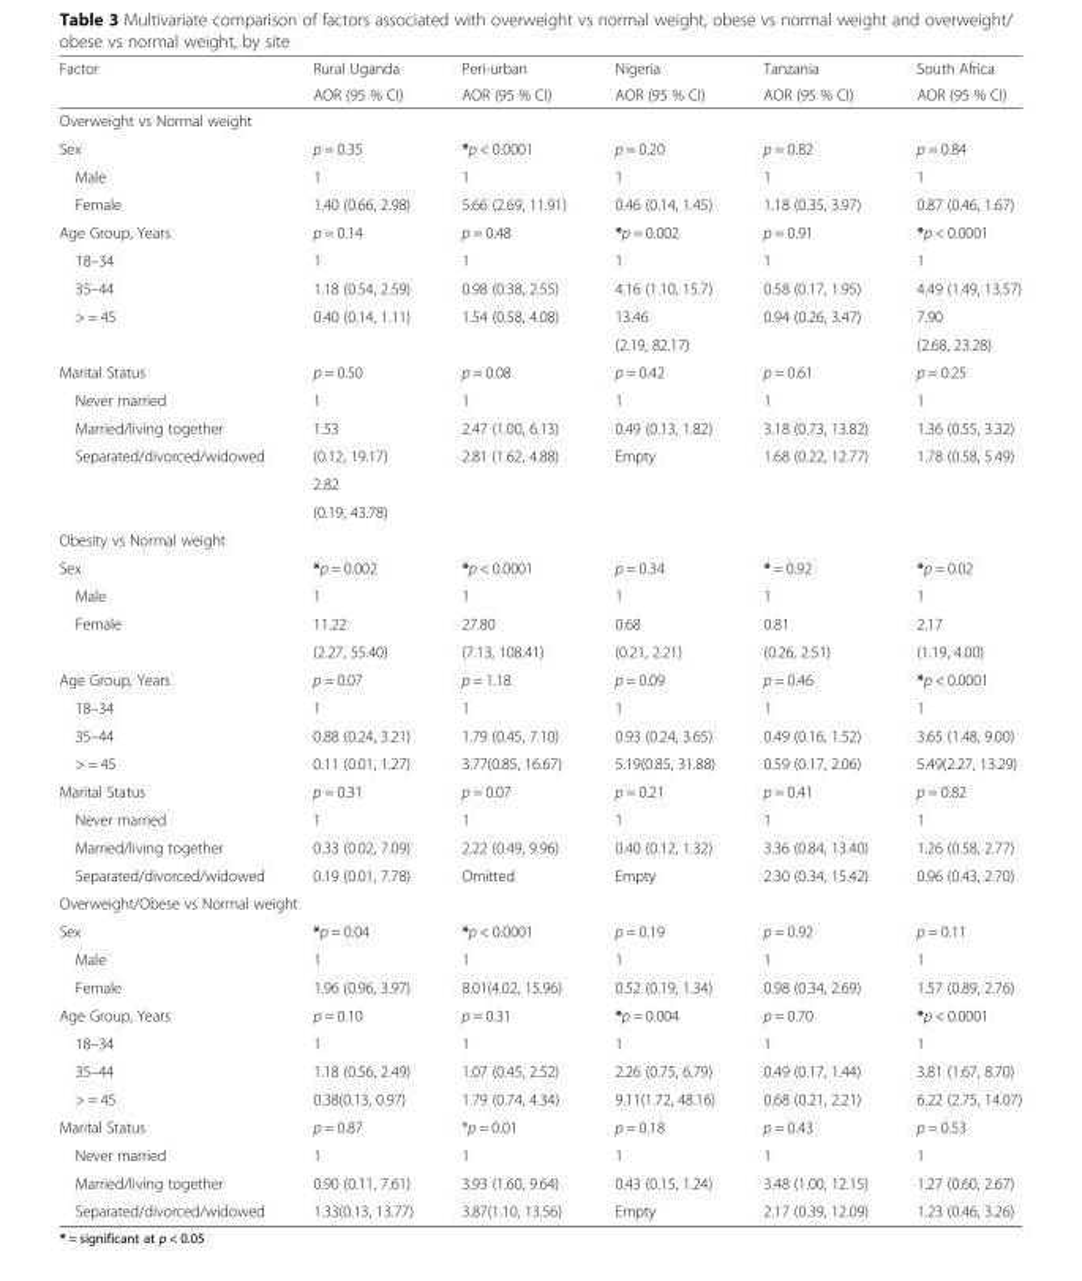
<table><thead><tr><td rowspan="2">Factor</td><td rowspan="2">Rural Uganda AOR (95 % CI)</td><td rowspan="2">Peri-urban AOR (95 % CI)</td><td rowspan="2">Nigeria AOR (95 % CI)</td><td rowspan="2">Tanzania AOR (95 % CI)</td><td rowspan="2">South Africa AOR (95 % CI)</td></tr><tr></tr></thead><tbody><tr><td colspan="6">Overweight vs Normal weight</td></tr><tr><td>Sex</td><td>p = 0.35</td><td>*p &lt; 0.0001</td><td>p = 0.20</td><td>p = 0.82</td><td>p = 0.84</td></tr><tr><td>Male</td><td>1</td><td>1</td><td>1</td><td>1</td><td>1</td></tr><tr><td>Female</td><td>1.40 (0.66, 2.98)</td><td>5.66 (2.69, 11.91)</td><td>0.46 (0.14, 1.45)</td><td>1.18 (0.35, 3.97)</td><td>0.87 (0.46, 1.67)</td></tr><tr><td>Age Group, Years</td><td>p = 0.14</td><td>p = 0.48</td><td>*p = 0.002</td><td>p = 0.91</td><td>*p &lt; 0.0001</td></tr><tr><td>18–34</td><td>1</td><td>1</td><td>1</td><td>1</td><td>1</td></tr><tr><td>35–44</td><td>1.18 (0.54, 2.59)</td><td>0.98 (0.38, 2.55)</td><td>4.16 (1.10, 15.7)</td><td>0.58 (0.17, 1.95)</td><td>4.49 (1.49, 13.57)</td></tr><tr><td rowspan="2">&gt; = 45</td><td rowspan="2">0.40 (0.14, 1.11)</td><td rowspan="2">1.54 (0.58, 4.08)</td><td>13.46</td><td rowspan="2">0.94 (0.26, 3.47)</td><td>7.90</td></tr><tr><td>(2.19, 82.17)</td><td>(2.68, 23.28)</td></tr><tr><td>Marital Status</td><td>p = 0.50</td><td>p = 0.08</td><td>p = 0.42</td><td>p = 0.61</td><td>p = 0.25</td></tr><tr><td>Never married</td><td>1</td><td>1</td><td>1</td><td>1</td><td>1</td></tr><tr><td>Married/living together</td><td>1.53</td><td>2.47 (1.00, 6.13)</td><td>0.49 (0.13, 1.82)</td><td>3.18 (0.73, 13.82)</td><td>1.36 (0.55, 3.32)</td></tr><tr><td rowspan="3">Separated/divorced/widowed</td><td>(0.12, 19.17)</td><td rowspan="3">2.81 (1.62, 4.88)</td><td rowspan="3">Empty</td><td rowspan="3">1.68 (0.22, 12.77)</td><td rowspan="3">1.78 (0.58, 5.49)</td></tr><tr><td>2.82</td></tr><tr><td>(0.19, 43.78)</td></tr><tr><td colspan="6">Obesity vs Normal weight</td></tr><tr><td>Sex</td><td>*p = 0.002</td><td>*p &lt; 0.0001</td><td>p = 0.34</td><td>* = 0.92</td><td>*p = 0.02</td></tr><tr><td>Male</td><td>1</td><td>1</td><td>1</td><td>1</td><td>1</td></tr><tr><td rowspan="2">Female</td><td>11.22</td><td>27.80</td><td>0.68</td><td>0.81</td><td>2.17</td></tr><tr><td>(2.27, 55.40)</td><td>(7.13, 108.41)</td><td>(0.21, 2.21)</td><td>(0.26, 2.51)</td><td>(1.19, 4.00)</td></tr><tr><td>Age Group, Years</td><td>p = 0.07</td><td>p = 1.18</td><td>p = 0.09</td><td>p = 0.46</td><td>*p &lt; 0.0001</td></tr><tr><td>18–34</td><td>1</td><td>1</td><td>1</td><td>1</td><td>1</td></tr><tr><td>35–44</td><td>0.88 (0.24, 3.21)</td><td>1.79 (0.45, 7.10)</td><td>0.93 (0.24, 3.65)</td><td>0.49 (0.16, 1.52)</td><td>3.65 (1.48, 9.00)</td></tr><tr><td>&gt; = 45</td><td>0.11 (0.01, 1.27)</td><td>3.77(0.85, 16.67)</td><td>5.19(0.85, 31.88)</td><td>0.59 (0.17, 2.06)</td><td>5.49(2.27, 13.29)</td></tr><tr><td>Marital Status</td><td>p = 0.31</td><td>p = 0.07</td><td>p = 0.21</td><td>p = 0.41</td><td>p = 0.82</td></tr><tr><td>Never married</td><td>1</td><td>1</td><td>1</td><td>1</td><td>1</td></tr><tr><td>Married/living together</td><td>0.33 (0.02, 7.09)</td><td>2.22 (0.49, 9.96)</td><td>0.40 (0.12, 1.32)</td><td>3.36 (0.84, 13.40)</td><td>1.26 (0.58, 2.77)</td></tr><tr><td>Separated/divorced/widowed</td><td>0.19 (0.01, 7.78)</td><td>Omitted</td><td>Empty</td><td>2.30 (0.34, 15.42)</td><td>0.96 (0.43, 2.70)</td></tr><tr><td colspan="6">Overweight/Obese vs Normal weight</td></tr><tr><td>Sex</td><td>*p = 0.04</td><td>*p &lt; 0.0001</td><td>p = 0.19</td><td>p = 0.92</td><td>p = 0.11</td></tr><tr><td>Male</td><td>1</td><td>1</td><td>1</td><td>1</td><td>1</td></tr><tr><td>Female</td><td>1.96 (0.96, 3.97)</td><td>8.01(4.02, 15.96)</td><td>0.52 (0.19, 1.34)</td><td>0.98 (0.34, 2.69)</td><td>1.57 (0.89, 2.76)</td></tr><tr><td>Age Group, Years</td><td>p = 0.10</td><td>p = 0.31</td><td>*p = 0.004</td><td>p = 0.70</td><td>*p &lt; 0.0001</td></tr><tr><td>18–34</td><td>1</td><td>1</td><td>1</td><td>1</td><td>1</td></tr><tr><td>35–44</td><td>1.18 (0.56, 2.49)</td><td>1.07 (0.45, 2.52)</td><td>2.26 (0.75, 6.79)</td><td>0.49 (0.17, 1.44)</td><td>3.81 (1.67, 8.70)</td></tr><tr><td>&gt; = 45</td><td>0.38(0.13, 0.97)</td><td>1.79 (0.74, 4.34)</td><td>9.11(1.72, 48.16)</td><td>0.68 (0.21, 2.21)</td><td>6.22 (2.75, 14.07)</td></tr><tr><td>Marital Status</td><td>p = 0.87</td><td>*p = 0.01</td><td>p = 0.18</td><td>p = 0.43</td><td>p = 0.53</td></tr><tr><td>Never married</td><td>1</td><td>1</td><td>1</td><td>1</td><td>1</td></tr><tr><td>Married/living together</td><td>0.90 (0.11, 7.61)</td><td>3.93 (1.60, 9.64)</td><td>0.43 (0.15, 1.24)</td><td>3.48 (1.00, 12.15)</td><td>1.27 (0.60, 2.67)</td></tr><tr><td>Separated/divorced/widowed</td><td>1.33(0.13, 13.77)</td><td>3.87(1.10, 13.56)</td><td>Empty</td><td>2.17 (0.39, 12.09)</td><td>1.23 (0.46, 3.26)</td></tr></tbody></table>